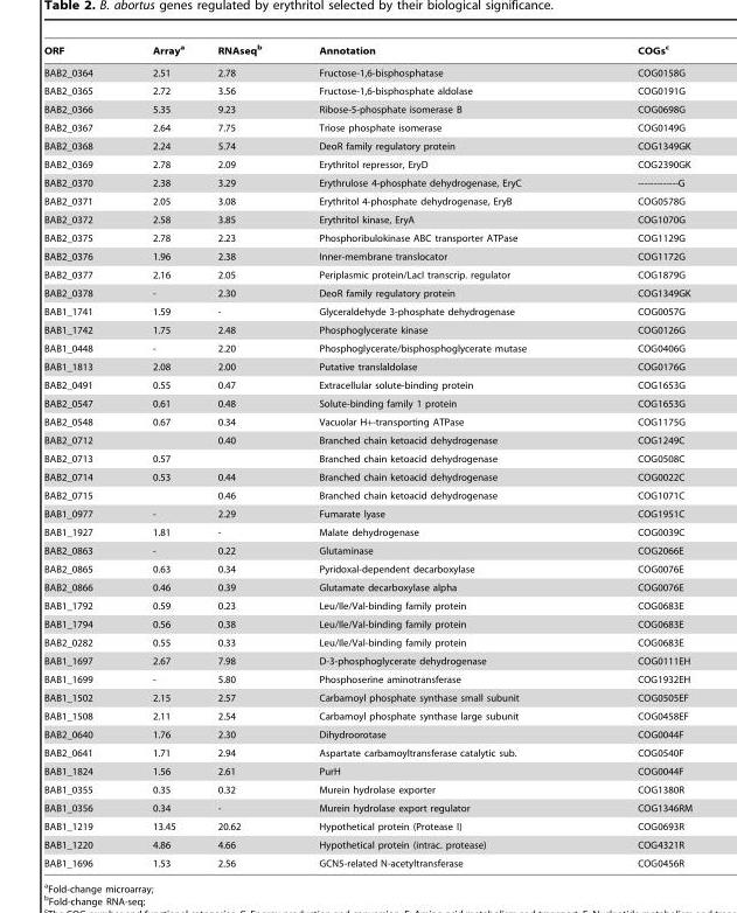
<table><thead><tr><td>ORF</td><td>Array<sup>a</sup></td><td>RNAseq<sup>b</sup></td><td>Annotation</td><td>COGs<sup>c</sup></td></tr></thead><tbody><tr><td>BAB2_0364</td><td>2.51</td><td>2.78</td><td>Fructose-1,6-bisphosphatase</td><td>COG0158G</td></tr><tr><td>BAB2_0365</td><td>2.72</td><td>3.56</td><td>Fructose-1,6-bisphosphate aldolase</td><td>COG0191G</td></tr><tr><td>BAB2_0366</td><td>5.35</td><td>9.23</td><td>Ribose-5-phosphate isomerase B</td><td>COG0698G</td></tr><tr><td>BAB2_0367</td><td>2.64</td><td>7.75</td><td>Triose phosphate isomerase</td><td>COG0149G</td></tr><tr><td>BAB2_0368</td><td>2.24</td><td>5.74</td><td>DeoR family regulatory protein</td><td>COG1349GK</td></tr><tr><td>BAB2_0369</td><td>2.78</td><td>2.09</td><td>Erythritol repressor, EryD</td><td>COG2390GK</td></tr><tr><td>BAB2_0370</td><td>2.38</td><td>3.29</td><td>Erythrulose 4-phosphate dehydrogenase, EryC</td><td>-------------G</td></tr><tr><td>BAB2_0371</td><td>2.05</td><td>3.08</td><td>Erythritol 4-phosphate dehydrogenase, EryB</td><td>COG0578G</td></tr><tr><td>BAB2_0372</td><td>2.58</td><td>3.85</td><td>Erythritol kinase, EryA</td><td>COG1070G</td></tr><tr><td>BAB2_0375</td><td>2.78</td><td>2.23</td><td>Phosphoribulokinase ABC transporter ATPase</td><td>COG1129G</td></tr><tr><td>BAB2_0376</td><td>1.96</td><td>2.38</td><td>Inner-membrane translocator</td><td>COG1172G</td></tr><tr><td>BAB2_0377</td><td>2.16</td><td>2.05</td><td>Periplasmic protein/LacI transcrip. regulator</td><td>COG1879G</td></tr><tr><td>BAB2_0378</td><td>-</td><td>2.30</td><td>DeoR family regulatory protein</td><td>COG1349GK</td></tr><tr><td>BAB1_1741</td><td>1.59</td><td>-</td><td>Glyceraldehyde 3-phosphate dehydrogenase</td><td>COG0057G</td></tr><tr><td>BAB1_1742</td><td>1.75</td><td>2.48</td><td>Phosphoglycerate kinase</td><td>COG0126G</td></tr><tr><td>BAB1_0448</td><td>-</td><td>2.20</td><td>Phosphoglycerate/bisphosphoglycerate mutase</td><td>COG0406G</td></tr><tr><td>BAB1_1813</td><td>2.08</td><td>2.00</td><td>Putative translaldolase</td><td>COG0176G</td></tr><tr><td>BAB2_0491</td><td>0.55</td><td>0.47</td><td>Extracellular solute-binding protein</td><td>COG1653G</td></tr><tr><td>BAB2_0547</td><td>0.61</td><td>0.48</td><td>Solute-binding family 1 protein</td><td>COG1653G</td></tr><tr><td>BAB2_0548</td><td>0.67</td><td>0.34</td><td>Vacuolar H+-transporting ATPase</td><td>COG1175G</td></tr><tr><td>BAB2_0712</td><td></td><td>0.40</td><td>Branched chain ketoacid dehydrogenase</td><td>COG1249C</td></tr><tr><td>BAB2_0713</td><td>0.57</td><td></td><td>Branched chain ketoacid dehydrogenase</td><td>COG0508C</td></tr><tr><td>BAB2_0714</td><td>0.53</td><td>0.44</td><td>Branched chain ketoacid dehydrogenase</td><td>COG0022C</td></tr><tr><td>BAB2_0715</td><td></td><td>0.46</td><td>Branched chain ketoacid dehydrogenase</td><td>COG1071C</td></tr><tr><td>BAB1_0977</td><td>-</td><td>2.29</td><td>Fumarate lyase</td><td>COG1951C</td></tr><tr><td>BAB1_1927</td><td>1.81</td><td>-</td><td>Malate dehydrogenase</td><td>COG0039C</td></tr><tr><td>BAB2_0863</td><td>-</td><td>0.22</td><td>Glutaminase</td><td>COG2066E</td></tr><tr><td>BAB2_0865</td><td>0.63</td><td>0.34</td><td>Pyridoxal-dependent decarboxylase</td><td>COG0076E</td></tr><tr><td>BAB2_0866</td><td>0.46</td><td>0.39</td><td>Glutamate decarboxylase alpha</td><td>COG0076E</td></tr><tr><td>BAB1_1792</td><td>0.59</td><td>0.23</td><td>Leu/Ile/Val-binding family protein</td><td>COG0683E</td></tr><tr><td>BAB1_1794</td><td>0.56</td><td>0.38</td><td>Leu/Ile/Val-binding family protein</td><td>COG0683E</td></tr><tr><td>BAB2_0282</td><td>0.55</td><td>0.33</td><td>Leu/Ile/Val-binding family protein</td><td>COG0683E</td></tr><tr><td>BAB1_1697</td><td>2.67</td><td>7.98</td><td>D-3-phosphoglycerate dehydrogenase</td><td>COG0111EH</td></tr><tr><td>BAB1_1699</td><td>-</td><td>5.80</td><td>Phosphoserine aminotransferase</td><td>COG1932EH</td></tr><tr><td>BAB1_1502</td><td>2.15</td><td>2.57</td><td>Carbamoyl phosphate synthase small subunit</td><td>COG0505EF</td></tr><tr><td>BAB1_1508</td><td>2.11</td><td>2.54</td><td>Carbamoyl phosphate synthase large subunit</td><td>COG0458EF</td></tr><tr><td>BAB2_0640</td><td>1.76</td><td>2.30</td><td>Dihydroorotase</td><td>COG0044F</td></tr><tr><td>BAB2_0641</td><td>1.71</td><td>2.94</td><td>Aspartate carbamoyltransferase catalytic sub.</td><td>COG0540F</td></tr><tr><td>BAB1_1824</td><td>1.56</td><td>2.61</td><td>PurH</td><td>COG0044F</td></tr><tr><td>BAB1_0355</td><td>0.35</td><td>0.32</td><td>Murein hydrolase exporter</td><td>COG1380R</td></tr><tr><td>BAB1_0356</td><td>0.34</td><td>-</td><td>Murein hydrolase export regulator</td><td>COG1346RM</td></tr><tr><td>BAB1_1219</td><td>13.45</td><td>20.62</td><td>Hypothetical protein (Protease I)</td><td>COG0693R</td></tr><tr><td>BAB1_1220</td><td>4.86</td><td>4.66</td><td>Hypothetical protein (intrac. protease)</td><td>COG4321R</td></tr><tr><td>BAB1_1696</td><td>1.53</td><td>2.56</td><td>GCN5-related N-acetyltransferase</td><td>COG0456R</td></tr></tbody></table>